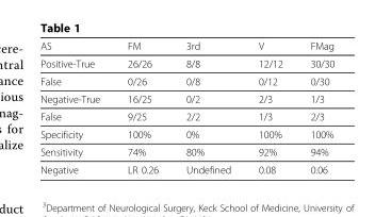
<table><thead><tr><td>AS</td><td>FM</td><td>3rd</td><td>V</td><td>FMag</td></tr></thead><tbody><tr><td>Positive-True</td><td>26/26</td><td>8/8</td><td>12/12</td><td>30/30</td></tr><tr><td>False</td><td>0/26</td><td>0/8</td><td>0/12</td><td>0/30</td></tr><tr><td>Negative-True</td><td>16/25</td><td>0/2</td><td>2/3</td><td>1/3</td></tr><tr><td>False</td><td>9/25</td><td>2/2</td><td>1/3</td><td>2/3</td></tr><tr><td>Specificity</td><td>100%</td><td>0%</td><td>100%</td><td>100%</td></tr><tr><td>Sensitivity</td><td>74%</td><td>80%</td><td>92%</td><td>94%</td></tr><tr><td>Negative</td><td>LR 0.26</td><td>Undefined</td><td>0.08</td><td>0.06</td></tr></tbody></table>